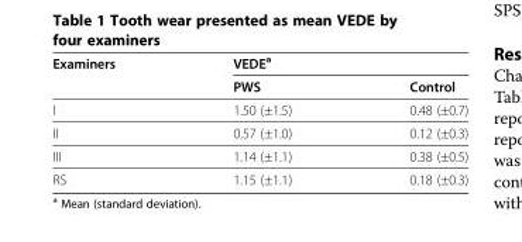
<table><thead><tr><td rowspan="2">Examiners</td><td colspan="2">VEDE<sup>a</sup></td></tr><tr><td>PWS</td><td>Control</td></tr></thead><tbody><tr><td>I</td><td>1.50 (±1.5)</td><td>0.48 (±0.7)</td></tr><tr><td>II</td><td>0.57 (±1.0)</td><td>0.12 (±0.3)</td></tr><tr><td>III</td><td>1.14 (±1.1)</td><td>0.38 (±0.5)</td></tr><tr><td>RS</td><td>1.15 (±1.1)</td><td>0.18 (±0.3)</td></tr></tbody></table>